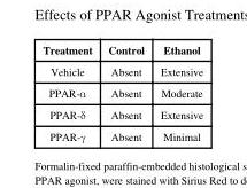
<table><thead><tr><td>Treatment</td><td>Control</td><td>Ethanol</td></tr></thead><tbody><tr><td>Vehicle</td><td>Absent</td><td>Extensive</td></tr><tr><td>PPAR-α</td><td>Absent</td><td>Moderate</td></tr><tr><td>PPAR-δ</td><td>Absent</td><td>Extensive</td></tr><tr><td>PPAR-γ</td><td>Absent</td><td>Minimal</td></tr></tbody></table>